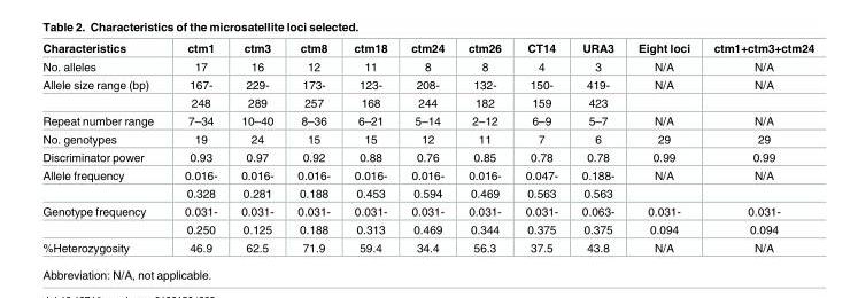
<table><thead><tr><td>Characteristics</td><td>ctm1</td><td>ctm3</td><td>ctm8</td><td>ctm18</td><td>ctm24</td><td>ctm26</td><td>CT14</td><td>URA3</td><td>Eight loci</td><td>ctm1+ctm3+ctm24</td></tr></thead><tbody><tr><td>No. alleles</td><td>17</td><td>16</td><td>12</td><td>11</td><td>8</td><td>8</td><td>4</td><td>3</td><td>N/A</td><td>N/A</td></tr><tr><td rowspan="2">Allele size range (bp)</td><td>167-</td><td>229-</td><td>173-</td><td>123-</td><td>208-</td><td>132-</td><td>150-</td><td>419-</td><td>N/A</td><td>N/A</td></tr><tr><td>248</td><td>289</td><td>257</td><td>168</td><td>244</td><td>182</td><td>159</td><td>423</td><td></td><td></td></tr><tr><td>Repeat number range</td><td>7–34</td><td>10–40</td><td>8–36</td><td>6–21</td><td>5–14</td><td>2–12</td><td>6–9</td><td>5–7</td><td>N/A</td><td>N/A</td></tr><tr><td>No. genotypes</td><td>19</td><td>24</td><td>15</td><td>15</td><td>12</td><td>11</td><td>7</td><td>6</td><td>29</td><td>29</td></tr><tr><td>Discriminator power</td><td>0.93</td><td>0.97</td><td>0.92</td><td>0.88</td><td>0.76</td><td>0.85</td><td>0.78</td><td>0.78</td><td>0.99</td><td>0.99</td></tr><tr><td rowspan="2">Allele frequency</td><td>0.016-</td><td>0.016-</td><td>0.016-</td><td>0.016-</td><td>0.016-</td><td>0.016-</td><td>0.047-</td><td>0.188-</td><td>N/A</td><td>N/A</td></tr><tr><td>0.328</td><td>0.281</td><td>0.188</td><td>0.453</td><td>0.594</td><td>0.469</td><td>0.563</td><td>0.563</td><td></td><td></td></tr><tr><td rowspan="2">Genotype frequency</td><td>0.031-</td><td>0.031-</td><td>0.031-</td><td>0.031-</td><td>0.031-</td><td>0.031-</td><td>0.031-</td><td>0.063-</td><td>0.031-</td><td>0.031-</td></tr><tr><td>0.250</td><td>0.125</td><td>0.188</td><td>0.313</td><td>0.469</td><td>0.344</td><td>0.375</td><td>0.375</td><td>0.094</td><td>0.094</td></tr><tr><td>%Heterozygosity</td><td>46.9</td><td>62.5</td><td>71.9</td><td>59.4</td><td>34.4</td><td>56.3</td><td>37.5</td><td>43.8</td><td>N/A</td><td>N/A</td></tr></tbody></table>